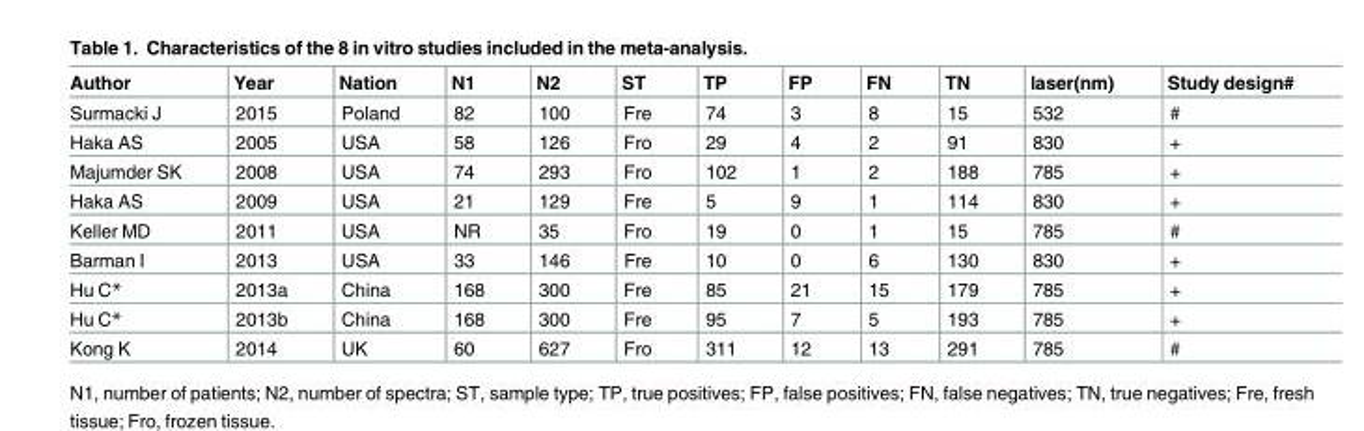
<table><thead><tr><td>Author</td><td>Year</td><td>Nation</td><td>N1</td><td>N2</td><td>ST</td><td>TP</td><td>FP</td><td>FN</td><td>TN</td><td>laser(nm)</td><td>Study design#</td></tr></thead><tbody><tr><td>Surmacki J</td><td>2015</td><td>Poland</td><td>82</td><td>100</td><td>Fre</td><td>74</td><td>3</td><td>8</td><td>15</td><td>532</td><td>#</td></tr><tr><td>Haka AS</td><td>2005</td><td>USA</td><td>58</td><td>126</td><td>Fro</td><td>29</td><td>4</td><td>2</td><td>91</td><td>830</td><td>+</td></tr><tr><td>Majumder SK</td><td>2008</td><td>USA</td><td>74</td><td>293</td><td>Fro</td><td>102</td><td>1</td><td>2</td><td>188</td><td>785</td><td>+</td></tr><tr><td>Haka AS</td><td>2009</td><td>USA</td><td>21</td><td>129</td><td>Fre</td><td>5</td><td>9</td><td>1</td><td>114</td><td>830</td><td>+</td></tr><tr><td>Keller MD</td><td>2011</td><td>USA</td><td>NR</td><td>35</td><td>Fro</td><td>19</td><td>0</td><td>1</td><td>15</td><td>785</td><td>#</td></tr><tr><td>Barman I</td><td>2013</td><td>USA</td><td>33</td><td>146</td><td>Fre</td><td>10</td><td>0</td><td>6</td><td>130</td><td>830</td><td>+</td></tr><tr><td>Hu C*</td><td>2013a</td><td>China</td><td>168</td><td>300</td><td>Fre</td><td>85</td><td>21</td><td>15</td><td>179</td><td>785</td><td>+</td></tr><tr><td>Hu C*</td><td>2013b</td><td>China</td><td>168</td><td>300</td><td>Fre</td><td>95</td><td>7</td><td>5</td><td>193</td><td>785</td><td>+</td></tr><tr><td>Kong K</td><td>2014</td><td>UK</td><td>60</td><td>627</td><td>Fro</td><td>311</td><td>12</td><td>13</td><td>291</td><td>785</td><td>#</td></tr></tbody></table>